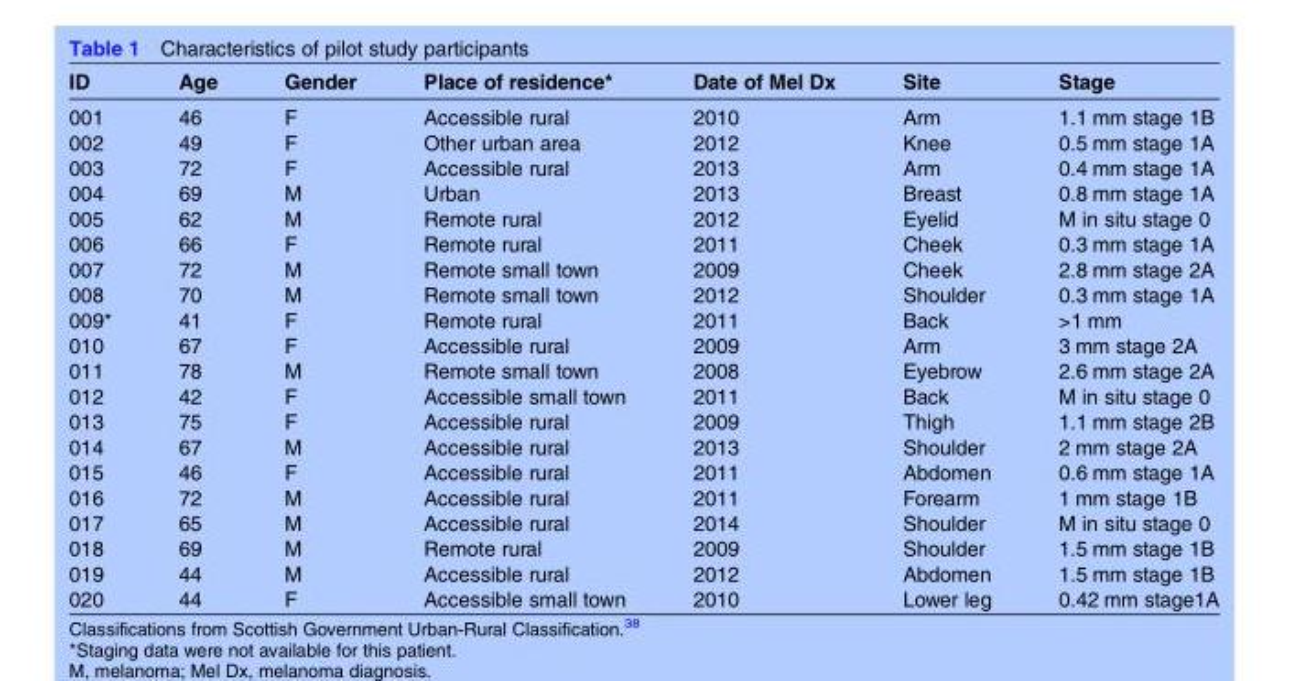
<table><thead><tr><td>ID</td><td>Age</td><td>Gender</td><td>Place of residence*</td><td>Date of Mel Dx</td><td>Site</td><td>Stage</td></tr></thead><tbody><tr><td>001</td><td>46</td><td>F</td><td>Accessible rural</td><td>2010</td><td>Arm</td><td>1.1 mm stage 1B</td></tr><tr><td>002</td><td>49</td><td>F</td><td>Other urban area</td><td>2012</td><td>Knee</td><td>0.5 mm stage 1A</td></tr><tr><td>003</td><td>72</td><td>F</td><td>Accessible rural</td><td>2013</td><td>Arm</td><td>0.4 mm stage 1A</td></tr><tr><td>004</td><td>69</td><td>M</td><td>Urban</td><td>2013</td><td>Breast</td><td>0.8 mm stage 1A</td></tr><tr><td>005</td><td>62</td><td>M</td><td>Remote rural</td><td>2012</td><td>Eyelid</td><td>M in situ stage 0</td></tr><tr><td>006</td><td>66</td><td>F</td><td>Remote rural</td><td>2011</td><td>Cheek</td><td>0.3 mm stage 1A</td></tr><tr><td>007</td><td>72</td><td>M</td><td>Remote small town</td><td>2009</td><td>Cheek</td><td>2.8 mm stage 2A</td></tr><tr><td>008</td><td>70</td><td>M</td><td>Remote small town</td><td>2012</td><td>Shoulder</td><td>0.3 mm stage 1A</td></tr><tr><td>009*</td><td>41</td><td>F</td><td>Remote rural</td><td>2011</td><td>Back</td><td>&gt;1 mm</td></tr><tr><td>010</td><td>67</td><td>F</td><td>Accessible rural</td><td>2009</td><td>Arm</td><td>3 mm stage 2A</td></tr><tr><td>011</td><td>78</td><td>M</td><td>Remote small town</td><td>2008</td><td>Eyebrow</td><td>2.6 mm stage 2A</td></tr><tr><td>012</td><td>42</td><td>F</td><td>Accessible small town</td><td>2011</td><td>Back</td><td>M in situ stage 0</td></tr><tr><td>013</td><td>75</td><td>F</td><td>Accessible rural</td><td>2009</td><td>Thigh</td><td>1.1 mm stage 2B</td></tr><tr><td>014</td><td>67</td><td>M</td><td>Accessible rural</td><td>2013</td><td>Shoulder</td><td>2 mm stage 2A</td></tr><tr><td>015</td><td>46</td><td>F</td><td>Accessible rural</td><td>2011</td><td>Abdomen</td><td>0.6 mm stage 1A</td></tr><tr><td>016</td><td>72</td><td>M</td><td>Accessible rural</td><td>2011</td><td>Forearm</td><td>1 mm stage 1B</td></tr><tr><td>017</td><td>65</td><td>M</td><td>Accessible rural</td><td>2014</td><td>Shoulder</td><td>M in situ stage 0</td></tr><tr><td>018</td><td>69</td><td>M</td><td>Remote rural</td><td>2009</td><td>Shoulder</td><td>1.5 mm stage 1B</td></tr><tr><td>019</td><td>44</td><td>M</td><td>Accessible rural</td><td>2012</td><td>Abdomen</td><td>1.5 mm stage 1B</td></tr><tr><td>020</td><td>44</td><td>F</td><td>Accessible small town</td><td>2010</td><td>Lower leg</td><td>0.42 mm stage1A</td></tr></tbody></table>